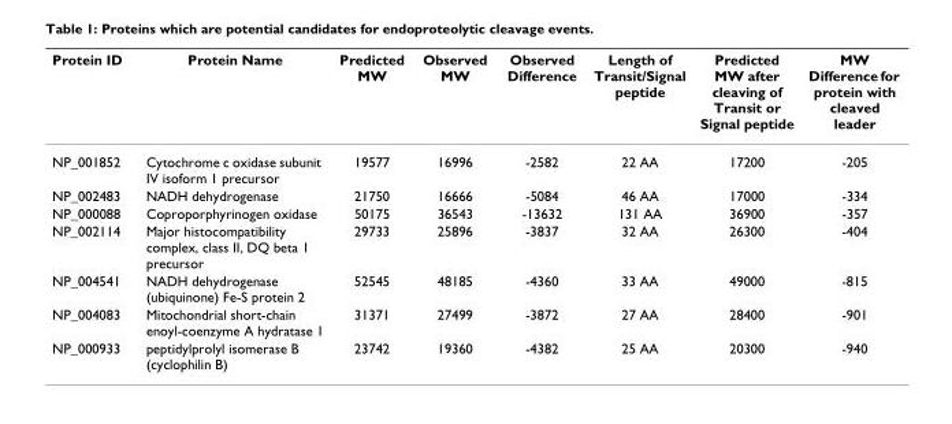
<table><thead><tr><td>Protein ID</td><td>Protein Name</td><td>Predicted MW</td><td>Observed MW</td><td>Observed Difference</td><td>Length of Transit/Signal peptide</td><td>Predicted MW after cleaving of Transit or Signal peptide</td><td>MW Difference for protein with cleaved leader</td></tr></thead><tbody><tr><td>NP_001852</td><td>Cytochrome c oxidase subunit IV isoform 1 precursor</td><td>19577</td><td>16996</td><td>-2582</td><td>22 AA</td><td>17200</td><td>-205</td></tr><tr><td>NP_002483</td><td>NADH dehydrogenase</td><td>21750</td><td>16666</td><td>-5084</td><td>46 AA</td><td>17000</td><td>-334</td></tr><tr><td>NP_000088</td><td>Coproporphyrinogen oxidase</td><td>50175</td><td>36543</td><td>-13632</td><td>131 AA</td><td>36900</td><td>-357</td></tr><tr><td>NP_002114</td><td>Major histocompatibility complex, class II, DQ beta 1 precursor</td><td>29733</td><td>25896</td><td>-3837</td><td>32 AA</td><td>26300</td><td>-404</td></tr><tr><td>NP_004541</td><td>NADH dehydrogenase (ubiquinone) Fe-S protein 2</td><td>52545</td><td>48185</td><td>-4360</td><td>33 AA</td><td>49000</td><td>-815</td></tr><tr><td>NP_004083</td><td>Mitochondrial short-chain enoyl-coenzyme A hydratase 1</td><td>31371</td><td>27499</td><td>-3872</td><td>27 AA</td><td>28400</td><td>-901</td></tr><tr><td>NP_000933</td><td>peptidylprolyl isomerase B (cyclophilin B)</td><td>23742</td><td>19360</td><td>-4382</td><td>25 AA</td><td>20300</td><td>-940</td></tr></tbody></table>